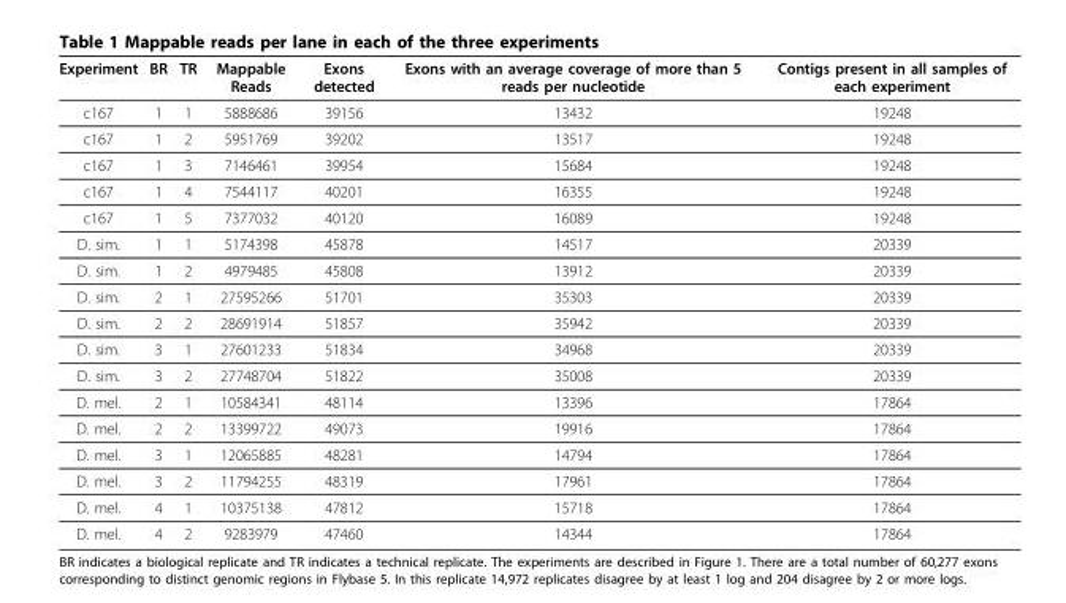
<table><thead><tr><td>Experiment</td><td>BR</td><td>TR</td><td>Mappable Reads</td><td>Exons detected</td><td>Exons with an average coverage of more than 5 reads per nucleotide</td><td>Contigs present in all samples of each experiment</td></tr></thead><tbody><tr><td>c167</td><td>1</td><td>1</td><td>5888686</td><td>39156</td><td>13432</td><td>19248</td></tr><tr><td>c167</td><td>1</td><td>2</td><td>5951769</td><td>39202</td><td>13517</td><td>19248</td></tr><tr><td>c167</td><td>1</td><td>3</td><td>7146461</td><td>39954</td><td>15684</td><td>19248</td></tr><tr><td>c167</td><td>1</td><td>4</td><td>7544117</td><td>40201</td><td>16355</td><td>19248</td></tr><tr><td>c167</td><td>1</td><td>5</td><td>7377032</td><td>40120</td><td>16089</td><td>19248</td></tr><tr><td>D. sim.</td><td>1</td><td>1</td><td>5174398</td><td>45878</td><td>14517</td><td>20339</td></tr><tr><td>D. sim.</td><td>1</td><td>2</td><td>4979485</td><td>45808</td><td>13912</td><td>20339</td></tr><tr><td>D. sim.</td><td>2</td><td>1</td><td>27595266</td><td>51701</td><td>35303</td><td>20339</td></tr><tr><td>D. sim.</td><td>2</td><td>2</td><td>28691914</td><td>51857</td><td>35942</td><td>20339</td></tr><tr><td>D. sim.</td><td>3</td><td>1</td><td>27601233</td><td>51834</td><td>34968</td><td>20339</td></tr><tr><td>D. sim.</td><td>3</td><td>2</td><td>27748704</td><td>51822</td><td>35008</td><td>20339</td></tr><tr><td>D. mel.</td><td>2</td><td>1</td><td>10584341</td><td>48114</td><td>13396</td><td>17864</td></tr><tr><td>D. mel.</td><td>2</td><td>2</td><td>13399722</td><td>49073</td><td>19916</td><td>17864</td></tr><tr><td>D. mel.</td><td>3</td><td>1</td><td>12065885</td><td>48281</td><td>14794</td><td>17864</td></tr><tr><td>D. mel.</td><td>3</td><td>2</td><td>11794255</td><td>48319</td><td>17961</td><td>17864</td></tr><tr><td>D. mel.</td><td>4</td><td>1</td><td>10375138</td><td>47812</td><td>15718</td><td>17864</td></tr><tr><td>D. mel.</td><td>4</td><td>2</td><td>9283979</td><td>47460</td><td>14344</td><td>17864</td></tr></tbody></table>